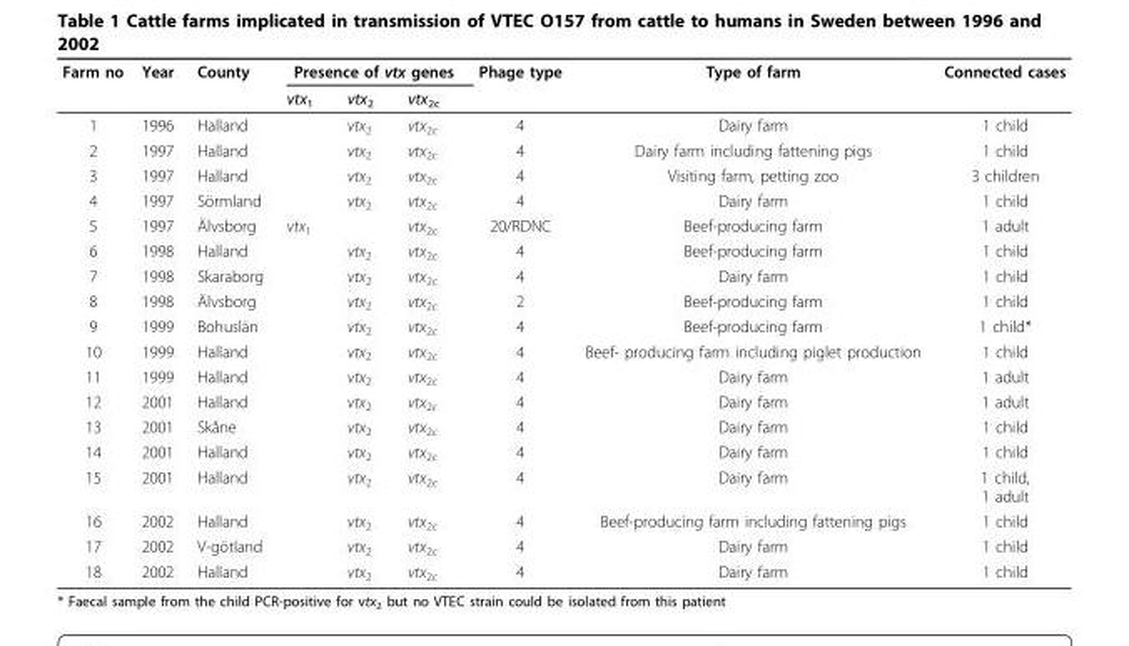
<table><thead><tr><td rowspan="2">Farm no</td><td rowspan="2">Year</td><td rowspan="2">County</td><td colspan="3">Presence of vtx genes</td><td rowspan="2">Phage type</td><td rowspan="2">Type of farm</td><td rowspan="2">Connected cases</td></tr><tr><td>vtx<sub>1</sub></td><td>vtx<sub>2</sub></td><td>vtx<sub>2c</sub></td></tr></thead><tbody><tr><td>1</td><td>1996</td><td>Halland</td><td></td><td>vtx<sub>2</sub></td><td>vtx<sub>2c</sub></td><td>4</td><td>Dairy farm</td><td>1 child</td></tr><tr><td>2</td><td>1997</td><td>Halland</td><td></td><td>vtx<sub>2</sub></td><td>vtx<sub>2c</sub></td><td>4</td><td>Dairy farm including fattening pigs</td><td>1 child</td></tr><tr><td>3</td><td>1997</td><td>Halland</td><td></td><td>vtx<sub>2</sub></td><td>vtx<sub>2c</sub></td><td>4</td><td>Visiting farm, petting zoo</td><td>3 children</td></tr><tr><td>4</td><td>1997</td><td>Sörmland</td><td></td><td>vtx<sub>2</sub></td><td>vtx<sub>2c</sub></td><td>4</td><td>Dairy farm</td><td>1 child</td></tr><tr><td>5</td><td>1997</td><td>Älvsborg</td><td>vtx<sub>1</sub></td><td></td><td>vtx<sub>2c</sub></td><td>20/RDNC</td><td>Beef-producing farm</td><td>1 adult</td></tr><tr><td>6</td><td>1998</td><td>Halland</td><td></td><td>vtx<sub>2</sub></td><td>vtx<sub>2c</sub></td><td>4</td><td>Beef-producing farm</td><td>1 child</td></tr><tr><td>7</td><td>1998</td><td>Skaraborg</td><td></td><td>vtx<sub>2</sub></td><td>vtx<sub>2c</sub></td><td>4</td><td>Dairy farm</td><td>1 child</td></tr><tr><td>8</td><td>1998</td><td>Älvsborg</td><td></td><td>vtx<sub>2</sub></td><td>vtx<sub>2c</sub></td><td>2</td><td>Beef-producing farm</td><td>1 child</td></tr><tr><td>9</td><td>1999</td><td>Bohuslän</td><td></td><td>vtx<sub>2</sub></td><td>vtx<sub>2c</sub></td><td>4</td><td>Beef-producing farm</td><td>1 child*</td></tr><tr><td>10</td><td>1999</td><td>Halland</td><td></td><td>vtx<sub>2</sub></td><td>vtx<sub>2c</sub></td><td>4</td><td>Beef- producing farm including piglet production</td><td>1 child</td></tr><tr><td>11</td><td>1999</td><td>Halland</td><td></td><td>vtx<sub>2</sub></td><td>vtx<sub>2c</sub></td><td>4</td><td>Dairy farm</td><td>1 adult</td></tr><tr><td>12</td><td>2001</td><td>Halland</td><td></td><td>vtx<sub>2</sub></td><td>vtx<sub>2c</sub></td><td>4</td><td>Dairy farm</td><td>1 adult</td></tr><tr><td>13</td><td>2001</td><td>Skåne</td><td></td><td>vtx<sub>2</sub></td><td>vtx<sub>2c</sub></td><td>4</td><td>Dairy farm</td><td>1 child</td></tr><tr><td>14</td><td>2001</td><td>Halland</td><td></td><td>vtx<sub>2</sub></td><td>vtx<sub>2c</sub></td><td>4</td><td>Dairy farm</td><td>1 child</td></tr><tr><td>15</td><td>2001</td><td>Halland</td><td></td><td>vtx<sub>2</sub></td><td>vtx<sub>2c</sub></td><td>4</td><td>Dairy farm</td><td>1 child, 1 adult</td></tr><tr><td>16</td><td>2002</td><td>Halland</td><td></td><td>vtx<sub>2</sub></td><td>vtx<sub>2c</sub></td><td>4</td><td>Beef-producing farm including fattening pigs</td><td>1 child</td></tr><tr><td>17</td><td>2002</td><td>V-götland</td><td></td><td>vtx<sub>2</sub></td><td>vtx<sub>2c</sub></td><td>4</td><td>Dairy farm</td><td>1 child</td></tr><tr><td>18</td><td>2002</td><td>Halland</td><td></td><td>vtx<sub>2</sub></td><td>vtx<sub>2c</sub></td><td>4</td><td>Dairy farm</td><td>1 child</td></tr></tbody></table>